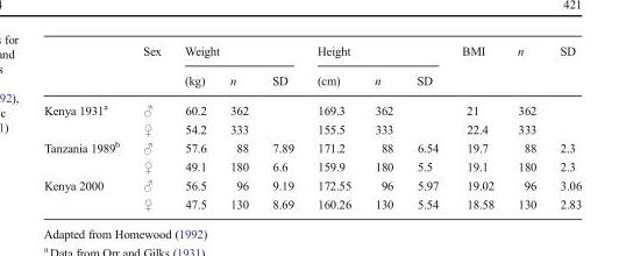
<table><thead><tr><td rowspan="2"></td><td rowspan="2">Sex</td><td colspan="3">Weight</td><td colspan="3">Height</td><td rowspan="2">BMI</td><td rowspan="2">n</td><td rowspan="2">SD</td></tr><tr><td>(kg)</td><td>n</td><td>SD</td><td>(cm)</td><td>n</td><td>SD</td></tr></thead><tbody><tr><td rowspan="2">Kenya 1931<sup>a</sup></td><td>♂</td><td>60.2</td><td>362</td><td></td><td>169.3</td><td>362</td><td></td><td>21</td><td>362</td><td></td></tr><tr><td>♀</td><td>54.2</td><td>333</td><td></td><td>155.5</td><td>333</td><td></td><td>22.4</td><td>333</td><td></td></tr><tr><td rowspan="2">Tanzania 1989<sup>b</sup></td><td>♂</td><td>57.6</td><td>88</td><td>7.89</td><td>171.2</td><td>88</td><td>6.54</td><td>19.7</td><td>88</td><td>2.3</td></tr><tr><td>♀</td><td>49.1</td><td>180</td><td>6.6</td><td>159.9</td><td>180</td><td>5.5</td><td>19.1</td><td>180</td><td>2.3</td></tr><tr><td rowspan="2">Kenya 2000</td><td>♂</td><td>56.5</td><td>96</td><td>9.19</td><td>172.55</td><td>96</td><td>5.97</td><td>19.02</td><td>96</td><td>3.06</td></tr><tr><td>♀</td><td>47.5</td><td>130</td><td>8.69</td><td>160.26</td><td>130</td><td>5.54</td><td>18.58</td><td>130</td><td>2.83</td></tr></tbody></table>